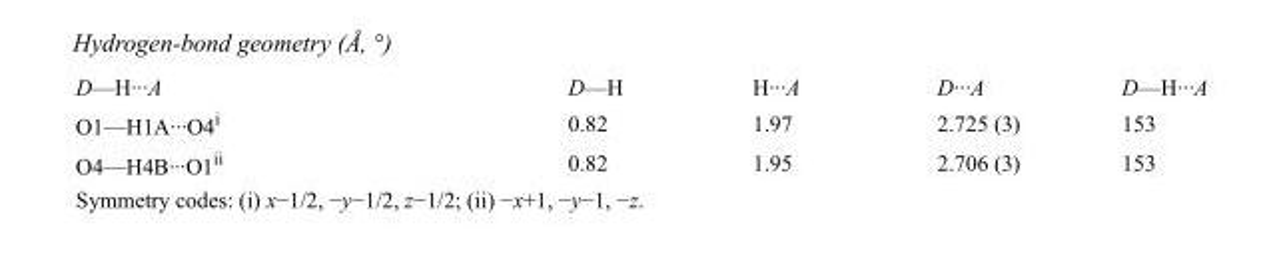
<table><tbody><tr><td>D—H···A</td><td>D—H</td><td>H···A</td><td>D···A</td><td>D—H···A</td></tr><tr><td>O1—H1A···O4<sup>i</sup></td><td>0.82</td><td>1.97</td><td>2.725 (3)</td><td>153</td></tr><tr><td>O4—H4B···O1<sup>ii</sup></td><td>0.82</td><td>1.95</td><td>2.706 (3)</td><td>153</td></tr></tbody></table>